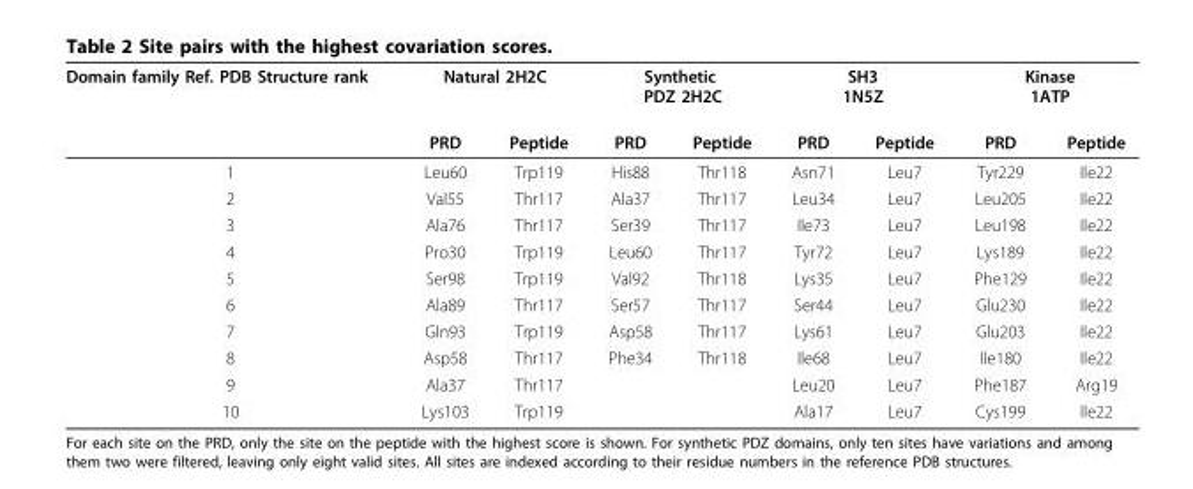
<table><thead><tr><td rowspan="2">Domain family Ref. PDB Structure rank</td><td colspan="2">Natural 2H2C</td><td colspan="2">Synthetic PDZ 2H2C</td><td colspan="2">SH3 1N5Z</td><td colspan="2">Kinase 1ATP</td></tr><tr><td>PRD</td><td>Peptide</td><td>PRD</td><td>Peptide</td><td>PRD</td><td>Peptide</td><td>PRD</td><td>Peptide</td></tr></thead><tbody><tr><td>1</td><td>Leu60</td><td>Trp119</td><td>His88</td><td>Thr118</td><td>Asn71</td><td>Leu7</td><td>Tyr229</td><td>Ile22</td></tr><tr><td>2</td><td>Val55</td><td>Thr117</td><td>Ala37</td><td>Thr117</td><td>Leu34</td><td>Leu7</td><td>Leu205</td><td>Ile22</td></tr><tr><td>3</td><td>Ala76</td><td>Thr117</td><td>Ser39</td><td>Thr117</td><td>Ile73</td><td>Leu7</td><td>Leu198</td><td>Ile22</td></tr><tr><td>4</td><td>Pro30</td><td>Trp119</td><td>Leu60</td><td>Thr117</td><td>Tyr72</td><td>Leu7</td><td>Lys189</td><td>Ile22</td></tr><tr><td>5</td><td>Ser98</td><td>Trp119</td><td>Val92</td><td>Thr118</td><td>Lys35</td><td>Leu7</td><td>Phe129</td><td>Ile22</td></tr><tr><td>6</td><td>Ala89</td><td>Thr117</td><td>Ser57</td><td>Thr117</td><td>Ser44</td><td>Leu7</td><td>Glu230</td><td>Ile22</td></tr><tr><td>7</td><td>Gln93</td><td>Trp119</td><td>Asp58</td><td>Thr117</td><td>Lys61</td><td>Leu7</td><td>Glu203</td><td>Ile22</td></tr><tr><td>8</td><td>Asp58</td><td>Thr117</td><td>Phe34</td><td>Thr118</td><td>Ile68</td><td>Leu7</td><td>Ile180</td><td>Ile22</td></tr><tr><td>9</td><td>Ala37</td><td>Thr117</td><td></td><td></td><td>Leu20</td><td>Leu7</td><td>Phe187</td><td>Arg19</td></tr><tr><td>10</td><td>Lys103</td><td>Trp119</td><td></td><td></td><td>Ala17</td><td>Leu7</td><td>Cys199</td><td>Ile22</td></tr></tbody></table>